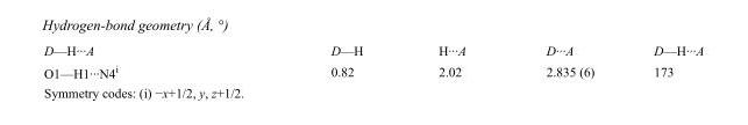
<table><tbody><tr><td>D—H···A</td><td>D—H</td><td>H···A</td><td>D···A</td><td>D—H···A</td></tr><tr><td>O1—H1···N4<sup>i</sup></td><td>0.82</td><td>2.02</td><td>2.835 (6)</td><td>173</td></tr></tbody></table>